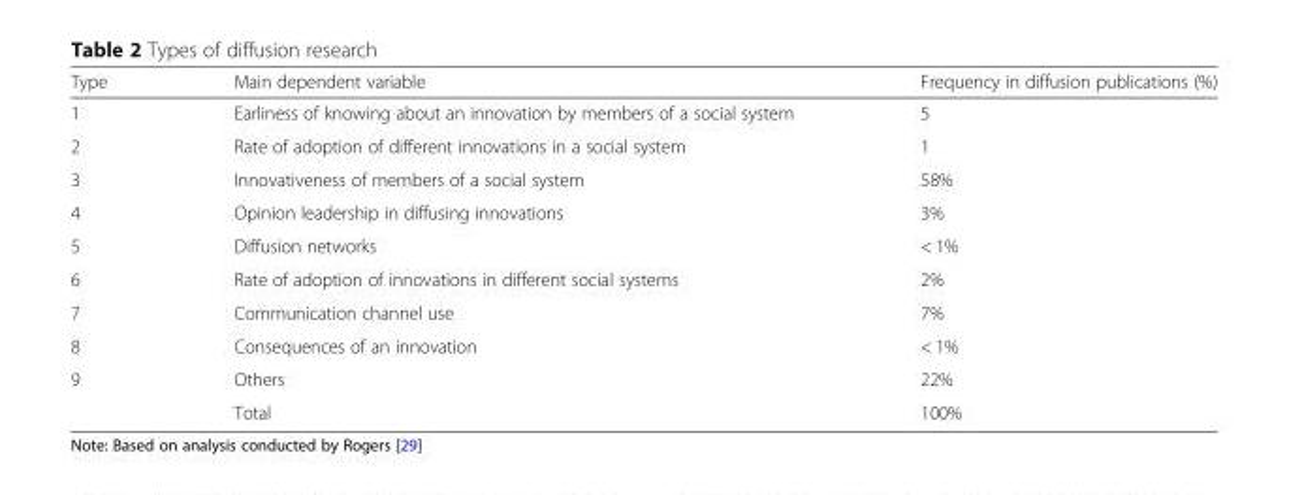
<table><thead><tr><td>Type</td><td>Main dependent variable</td><td>Frequency in diffusion publications (%)</td></tr></thead><tbody><tr><td>1</td><td>Earliness of knowing about an innovation by members of a social system</td><td>5</td></tr><tr><td>2</td><td>Rate of adoption of different innovations in a social system</td><td>1</td></tr><tr><td>3</td><td>Innovativeness of members of a social system</td><td>58%</td></tr><tr><td>4</td><td>Opinion leadership in diffusing innovations</td><td>3%</td></tr><tr><td>5</td><td>Diffusion networks</td><td>&lt; 1%</td></tr><tr><td>6</td><td>Rate of adoption of innovations in different social systems</td><td>2%</td></tr><tr><td>7</td><td>Communication channel use</td><td>7%</td></tr><tr><td>8</td><td>Consequences of an innovation</td><td>&lt; 1%</td></tr><tr><td rowspan="2">9</td><td>Others</td><td>22%</td></tr><tr><td>Total</td><td>100%</td></tr></tbody></table>